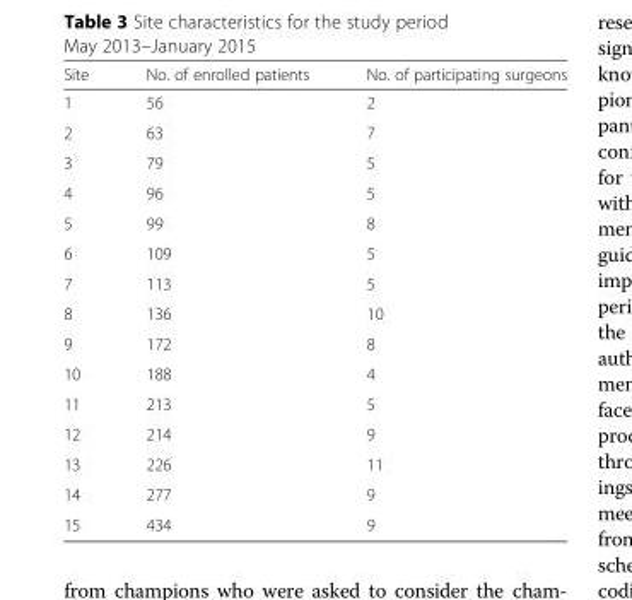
<table><thead><tr><td>Site</td><td>No. of enrolled patients</td><td>No. of participating surgeons</td></tr></thead><tbody><tr><td>1</td><td>56</td><td>2</td></tr><tr><td>2</td><td>63</td><td>7</td></tr><tr><td>3</td><td>79</td><td>5</td></tr><tr><td>4</td><td>96</td><td>5</td></tr><tr><td>5</td><td>99</td><td>8</td></tr><tr><td>6</td><td>109</td><td>5</td></tr><tr><td>7</td><td>113</td><td>5</td></tr><tr><td>8</td><td>136</td><td>10</td></tr><tr><td>9</td><td>172</td><td>8</td></tr><tr><td>10</td><td>188</td><td>4</td></tr><tr><td>11</td><td>213</td><td>5</td></tr><tr><td>12</td><td>214</td><td>9</td></tr><tr><td>13</td><td>226</td><td>11</td></tr><tr><td>14</td><td>277</td><td>9</td></tr><tr><td>15</td><td>434</td><td>9</td></tr></tbody></table>